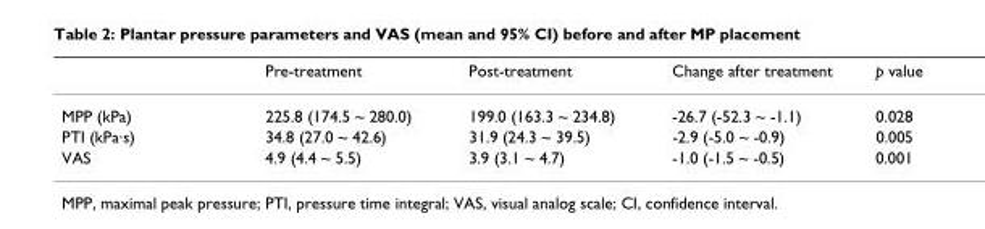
<table><thead><tr><td></td><td>Pre-treatment</td><td>Post-treatment</td><td>Change after treatment</td><td>p value</td></tr></thead><tbody><tr><td>MPP (kPa)</td><td>225.8 (174.5 ~ 280.0)</td><td>199.0 (163.3 ~ 234.8)</td><td>-26.7 (-52.3 ~ -1.1)</td><td>0.028</td></tr><tr><td>PTI (kPa·s)</td><td>34.8 (27.0 ~ 42.6)</td><td>31.9 (24.3 ~ 39.5)</td><td>-2.9 (-5.0 ~ -0.9)</td><td>0.005</td></tr><tr><td>VAS</td><td>4.9 (4.4 ~ 5.5)</td><td>3.9 (3.1 ~ 4.7)</td><td>-1.0 (-1.5 ~ -0.5)</td><td>0.001</td></tr></tbody></table>